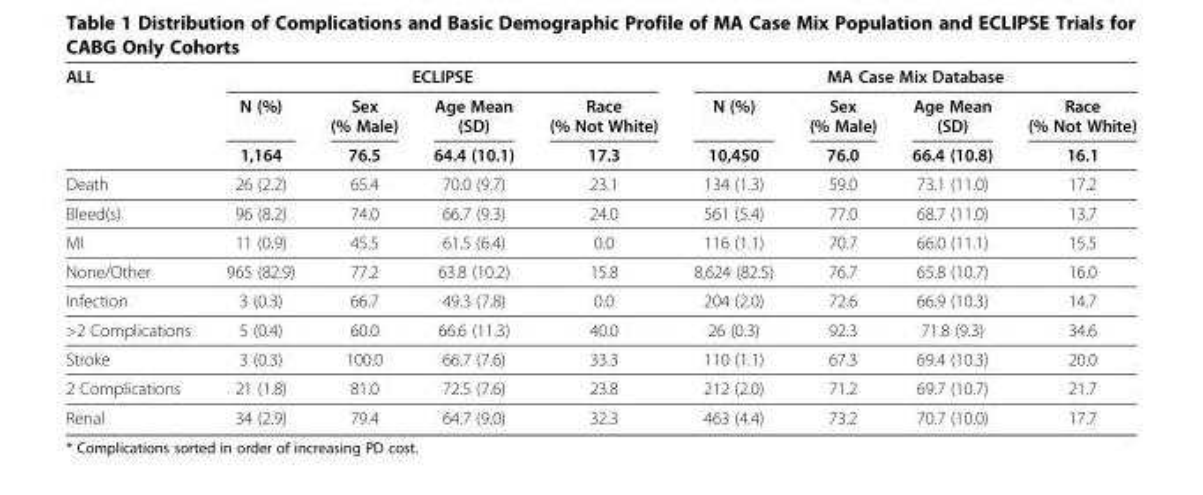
<table><thead><tr><td rowspan="3">ALL</td><td colspan="4">ECLIPSE</td><td colspan="4">MA Case Mix Database</td></tr><tr><td rowspan="2">N (%) 1,164</td><td rowspan="2">Sex (% Male) 76.5</td><td rowspan="2">Age Mean (SD) 64.4 (10.1)</td><td rowspan="2">Race (% Not White) 17.3</td><td rowspan="2">N (%) 10,450</td><td rowspan="2">Sex (% Male) 76.0</td><td rowspan="2">Age Mean (SD) 66.4 (10.8)</td><td rowspan="2">Race (% Not White) 16.1</td></tr><tr></tr></thead><tbody><tr><td>Death</td><td>26 (2.2)</td><td>65.4</td><td>70.0 (9.7)</td><td>23.1</td><td>134 (1.3)</td><td>59.0</td><td>73.1 (11.0)</td><td>17.2</td></tr><tr><td>Bleed(s)</td><td>96 (8.2)</td><td>74.0</td><td>66.7 (9.3)</td><td>24.0</td><td>561 (5.4)</td><td>77.0</td><td>68.7 (11.0)</td><td>13.7</td></tr><tr><td>MI</td><td>11 (0.9)</td><td>45.5</td><td>61.5 (6.4)</td><td>0.0</td><td>116 (1.1)</td><td>70.7</td><td>66.0 (11.1)</td><td>15.5</td></tr><tr><td>None/Other</td><td>965 (82.9)</td><td>77.2</td><td>63.8 (10.2)</td><td>15.8</td><td>8,624 (82.5)</td><td>76.7</td><td>65.8 (10.7)</td><td>16.0</td></tr><tr><td>Infection</td><td>3 (0.3)</td><td>66.7</td><td>49.3 (7.8)</td><td>0.0</td><td>204 (2.0)</td><td>72.6</td><td>66.9 (10.3)</td><td>14.7</td></tr><tr><td>&gt;2 Complications</td><td>5 (0.4)</td><td>60.0</td><td>66.6 (11.3)</td><td>40.0</td><td>26 (0.3)</td><td>92.3</td><td>71.8 (9.3)</td><td>34.6</td></tr><tr><td>Stroke</td><td>3 (0.3)</td><td>100.0</td><td>66.7 (7.6)</td><td>33.3</td><td>110 (1.1)</td><td>67.3</td><td>69.4 (10.3)</td><td>20.0</td></tr><tr><td>2 Complications</td><td>21 (1.8)</td><td>81.0</td><td>72.5 (7.6)</td><td>23.8</td><td>212 (2.0)</td><td>71.2</td><td>69.7 (10.7)</td><td>21.7</td></tr><tr><td>Renal</td><td>34 (2.9)</td><td>79.4</td><td>64.7 (9.0)</td><td>32.3</td><td>463 (4.4)</td><td>73.2</td><td>70.7 (10.0)</td><td>17.7</td></tr></tbody></table>